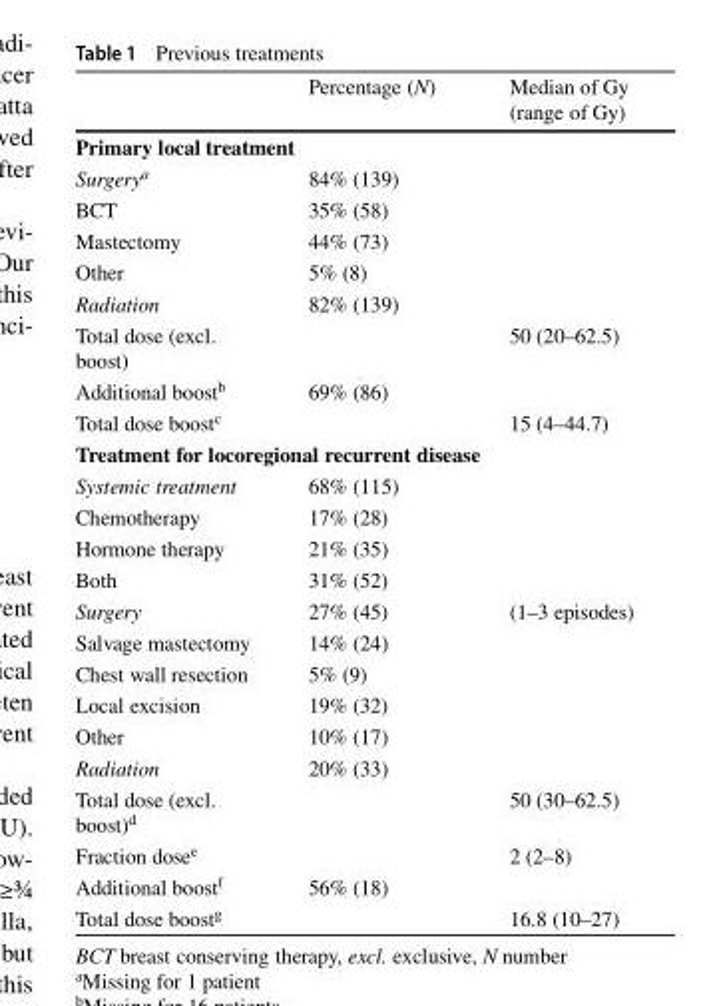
<table><thead><tr><td></td><td>Percentage (N)</td><td>Median of Gy (range of Gy)</td></tr></thead><tbody><tr><td colspan="3">Primary local treatment</td></tr><tr><td>Surgery<sup>a</sup></td><td>84% (139)</td><td></td></tr><tr><td>BCT</td><td>35% (58)</td><td></td></tr><tr><td>Mastectomy</td><td>44% (73)</td><td></td></tr><tr><td>Other</td><td>5% (8)</td><td></td></tr><tr><td>Radiation</td><td>82% (139)</td><td></td></tr><tr><td>Total dose (excl. boost)</td><td></td><td>50 (20–62.5)</td></tr><tr><td>Additional boost<sup>b</sup></td><td>69% (86)</td><td></td></tr><tr><td>Total dose boost<sup>c</sup></td><td></td><td>15 (4–44.7)</td></tr><tr><td colspan="3">Treatment for locoregional recurrent disease</td></tr><tr><td>Systemic treatment</td><td>68% (115)</td><td></td></tr><tr><td>Chemotherapy</td><td>17% (28)</td><td></td></tr><tr><td>Hormone therapy</td><td>21% (35)</td><td></td></tr><tr><td>Both</td><td>31% (52)</td><td></td></tr><tr><td>Surgery</td><td>27% (45)</td><td>(1–3 episodes)</td></tr><tr><td>Salvage mastectomy</td><td>14% (24)</td><td></td></tr><tr><td>Chest wall resection</td><td>5% (9)</td><td></td></tr><tr><td>Local excision</td><td>19% (32)</td><td></td></tr><tr><td>Other</td><td>10% (17)</td><td></td></tr><tr><td>Radiation</td><td>20% (33)</td><td></td></tr><tr><td>Total dose (excl. boost)<sup>d</sup></td><td></td><td>50 (30–62.5)</td></tr><tr><td>Fraction dose<sup>e</sup></td><td></td><td>2 (2–8)</td></tr><tr><td>Additional boost<sup>f</sup></td><td>56% (18)</td><td></td></tr><tr><td>Total dose boost<sup>g</sup></td><td></td><td>16.8 (10–27)</td></tr></tbody></table>